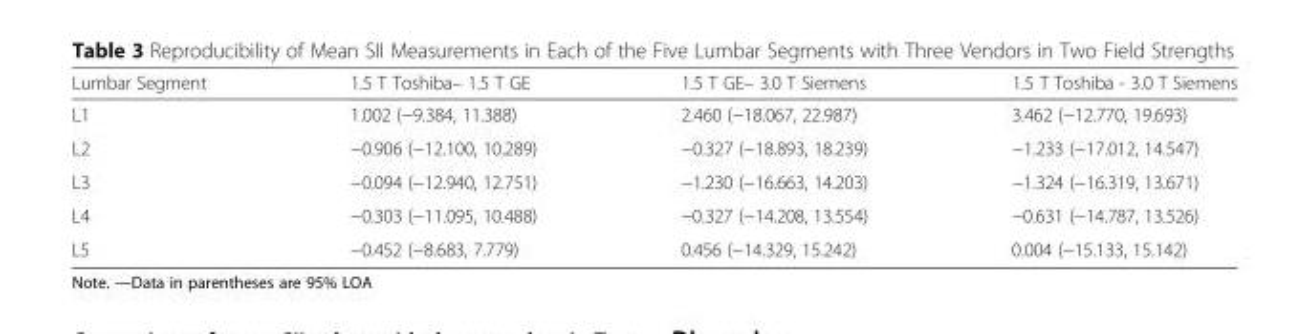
<table><thead><tr><td>Lumbar Segment</td><td>1.5 T Toshiba– 1.5 T GE</td><td>1.5 T GE– 3.0 T Siemens</td><td>1.5 T Toshiba - 3.0 T Siemens</td></tr></thead><tbody><tr><td>L1</td><td>1.002 (−9.384, 11.388)</td><td>2.460 (−18.067, 22.987)</td><td>3.462 (−12.770, 19.693)</td></tr><tr><td>L2</td><td>−0.906 (−12.100, 10.289)</td><td>−0.327 (−18.893, 18.239)</td><td>−1.233 (−17.012, 14.547)</td></tr><tr><td>L3</td><td>−0.094 (−12.940, 12.751)</td><td>−1.230 (−16.663, 14.203)</td><td>−1.324 (−16.319, 13.671)</td></tr><tr><td>L4</td><td>−0.303 (−11.095, 10.488)</td><td>−0.327 (−14.208, 13.554)</td><td>−0.631 (−14.787, 13.526)</td></tr><tr><td>L5</td><td>−0.452 (−8.683, 7.779)</td><td>0.456 (−14.329, 15.242)</td><td>0.004 (−15.133, 15.142)</td></tr></tbody></table>